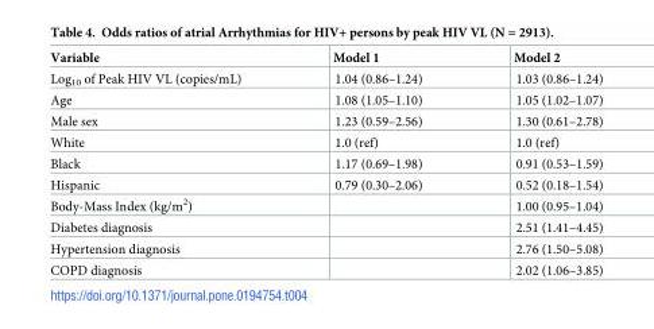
<table><thead><tr><td>Variable</td><td>Model 1</td><td>Model 2</td></tr></thead><tbody><tr><td>Log<sub>10</sub> of Peak HIV VL (copies/mL)</td><td>1.04 (0.86–1.24)</td><td>1.03 (0.86–1.24)</td></tr><tr><td>Age</td><td>1.08 (1.05–1.10)</td><td>1.05 (1.02–1.07)</td></tr><tr><td>Male sex</td><td>1.23 (0.59–2.56)</td><td>1.30 (0.61–2.78)</td></tr><tr><td>White</td><td>1.0 (ref)</td><td>1.0 (ref)</td></tr><tr><td>Black</td><td>1.17 (0.69–1.98)</td><td>0.91 (0.53–1.59)</td></tr><tr><td>Hispanic</td><td>0.79 (0.30–2.06)</td><td>0.52 (0.18–1.54)</td></tr><tr><td>Body-Mass Index (kg/m<sup>2</sup>)</td><td></td><td>1.00 (0.95–1.04)</td></tr><tr><td>Diabetes diagnosis</td><td></td><td>2.51 (1.41–4.45)</td></tr><tr><td>Hypertension diagnosis</td><td></td><td>2.76 (1.50–5.08)</td></tr><tr><td>COPD diagnosis</td><td></td><td>2.02 (1.06–3.85)</td></tr></tbody></table>